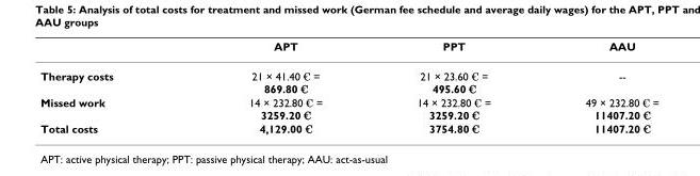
<table><thead><tr><td></td><td>APT</td><td>PPT</td><td>AAU</td></tr></thead><tbody><tr><td>Therapy costs</td><td>21 × 41.40 € = 869.80 €</td><td>21 × 23.60 € = 495.60 €</td><td>--</td></tr><tr><td>Missed work</td><td>14 × 232.80 € = 3259.20 €</td><td>14 × 232.80 € = 3259.20 €</td><td>49 × 232.80 € = 11407.20 €</td></tr><tr><td>Total costs</td><td>4,129.00 €</td><td>3754.80 €</td><td>11407.20 €</td></tr></tbody></table>